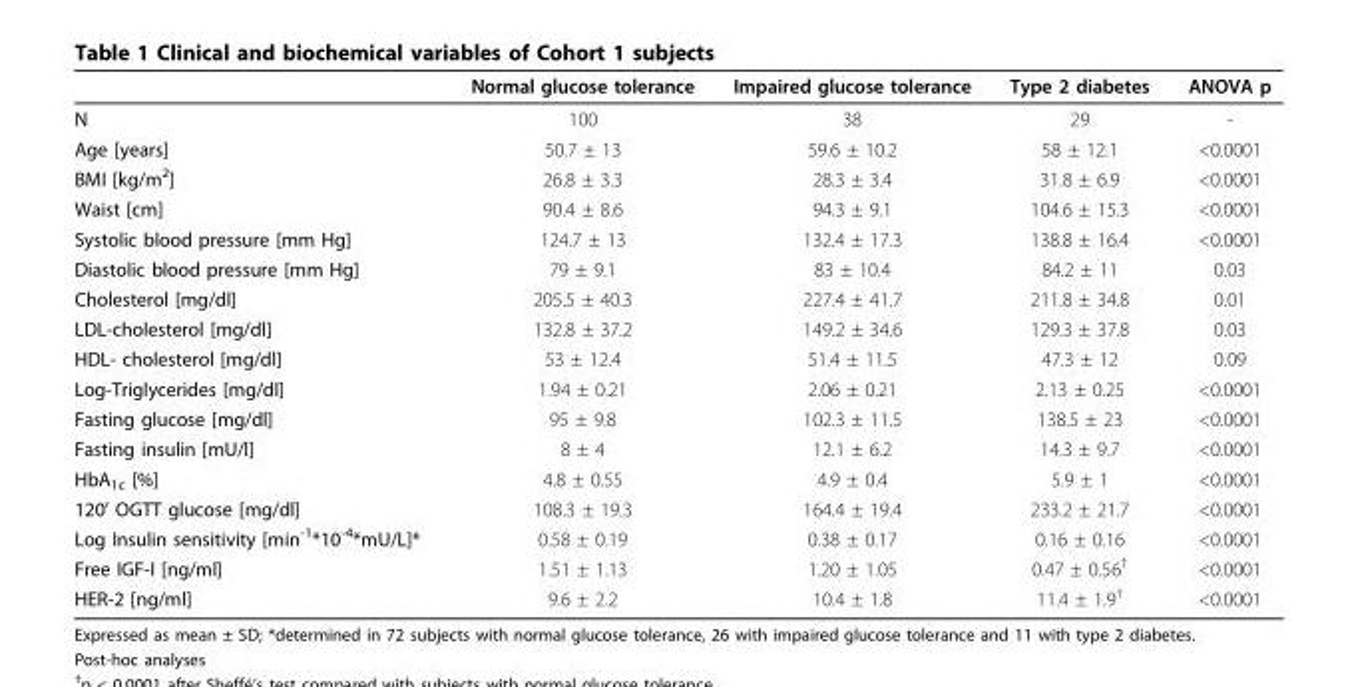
<table><thead><tr><td></td><td>Normal glucose tolerance</td><td>Impaired glucose tolerance</td><td>Type 2 diabetes</td><td>ANOVA p</td></tr></thead><tbody><tr><td>N</td><td>100</td><td>38</td><td>29</td><td>-</td></tr><tr><td>Age [years]</td><td>50.7 ± 13</td><td>59.6 ± 10.2</td><td>58 ± 12.1</td><td>&lt;0.0001</td></tr><tr><td>BMI [kg/m<sup>2</sup>]</td><td>26.8 ± 3.3</td><td>28.3 ± 3.4</td><td>31.8 ± 6.9</td><td>&lt;0.0001</td></tr><tr><td>Waist [cm]</td><td>90.4 ± 8.6</td><td>94.3 ± 9.1</td><td>104.6 ± 15.3</td><td>&lt;0.0001</td></tr><tr><td>Systolic blood pressure [mm Hg]</td><td>124.7 ± 13</td><td>132.4 ± 17.3</td><td>138.8 ± 16.4</td><td>&lt;0.0001</td></tr><tr><td>Diastolic blood pressure [mm Hg]</td><td>79 ± 9.1</td><td>83 ± 10.4</td><td>84.2 ± 11</td><td>0.03</td></tr><tr><td>Cholesterol [mg/dl]</td><td>205.5 ± 40.3</td><td>227.4 ± 41.7</td><td>211.8 ± 34.8</td><td>0.01</td></tr><tr><td>LDL-cholesterol [mg/dl]</td><td>132.8 ± 37.2</td><td>149.2 ± 34.6</td><td>129.3 ± 37.8</td><td>0.03</td></tr><tr><td>HDL- cholesterol [mg/dl]</td><td>53 ± 12.4</td><td>51.4 ± 11.5</td><td>47.3 ± 12</td><td>0.09</td></tr><tr><td>Log-Triglycerides [mg/dl]</td><td>1.94 ± 0.21</td><td>2.06 ± 0.21</td><td>2.13 ± 0.25</td><td>&lt;0.0001</td></tr><tr><td>Fasting glucose [mg/dl]</td><td>95 ± 9.8</td><td>102.3 ± 11.5</td><td>138.5 ± 23</td><td>&lt;0.0001</td></tr><tr><td>Fasting insulin [mU/l]</td><td>8 ± 4</td><td>12.1 ± 6.2</td><td>14.3 ± 9.7</td><td>&lt;0.0001</td></tr><tr><td>HbA<sub>1c</sub> [%]</td><td>4.8 ± 0.55</td><td>4.9 ± 0.4</td><td>5.9 ± 1</td><td>&lt;0.0001</td></tr><tr><td>120’ OGTT glucose [mg/dl]</td><td>108.3 ± 19.3</td><td>164.4 ± 19.4</td><td>233.2 ± 21.7</td><td>&lt;0.0001</td></tr><tr><td>Log Insulin sensitivity [min<sup>-1</sup>*10<sup>-4</sup>*mU/L]*</td><td>0.58 ± 0.19</td><td>0.38 ± 0.17</td><td>0.16 ± 0.16</td><td>&lt;0.0001</td></tr><tr><td>Free IGF-I [ng/ml]</td><td>1.51 ± 1.13</td><td>1.20 ± 1.05</td><td>0.47 ± 0.56<sup>†</sup></td><td>&lt;0.0001</td></tr><tr><td>HER-2 [ng/ml]</td><td>9.6 ± 2.2</td><td>10.4 ± 1.8</td><td>11.4 ± 1.9<sup>†</sup></td><td>&lt;0.0001</td></tr></tbody></table>